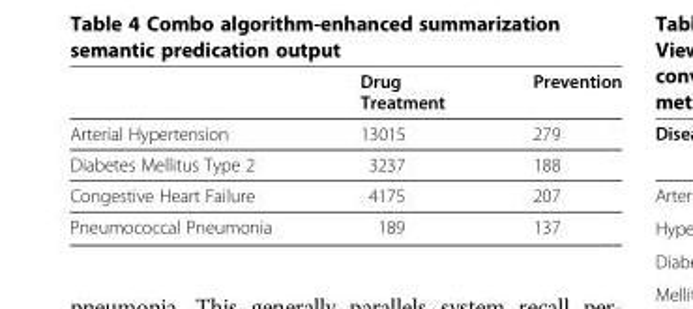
<table><thead><tr><td></td><td>Drug Treatment</td><td>Prevention</td></tr></thead><tbody><tr><td>Arterial Hypertension</td><td>13015</td><td>279</td></tr><tr><td>Diabetes Mellitus Type 2</td><td>3237</td><td>188</td></tr><tr><td>Congestive Heart Failure</td><td>4175</td><td>207</td></tr><tr><td>Pneumococcal Pneumonia</td><td>189</td><td>137</td></tr></tbody></table>